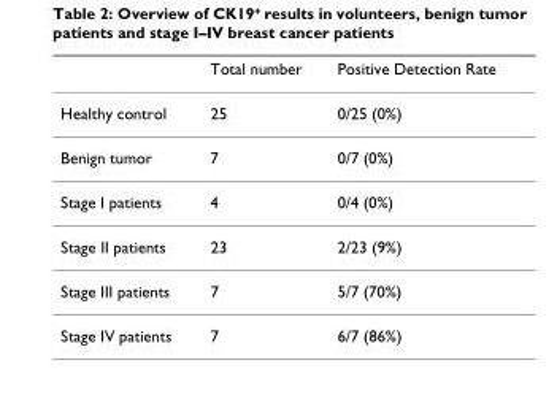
<table><thead><tr><td></td><td>Total number</td><td>Positive Detection Rate</td></tr></thead><tbody><tr><td>Healthy control</td><td>25</td><td>0/25 (0%)</td></tr><tr><td>Benign tumor</td><td>7</td><td>0/7 (0%)</td></tr><tr><td>Stage I patients</td><td>4</td><td>0/4 (0%)</td></tr><tr><td>Stage II patients</td><td>23</td><td>2/23 (9%)</td></tr><tr><td>Stage III patients</td><td>7</td><td>5/7 (70%)</td></tr><tr><td>Stage IV patients</td><td>7</td><td>6/7 (86%)</td></tr></tbody></table>